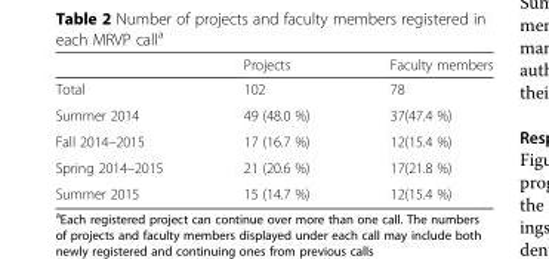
<table><thead><tr><td></td><td>Projects</td><td>Faculty members</td></tr></thead><tbody><tr><td>Total</td><td>102</td><td>78</td></tr><tr><td>Summer 2014</td><td>49 (48.0 %)</td><td>37(47.4 %)</td></tr><tr><td>Fall 2014–2015</td><td>17 (16.7 %)</td><td>12(15.4 %)</td></tr><tr><td>Spring 2014–2015</td><td>21 (20.6 %)</td><td>17(21.8 %)</td></tr><tr><td>Summer 2015</td><td>15 (14.7 %)</td><td>12(15.4 %)</td></tr></tbody></table>